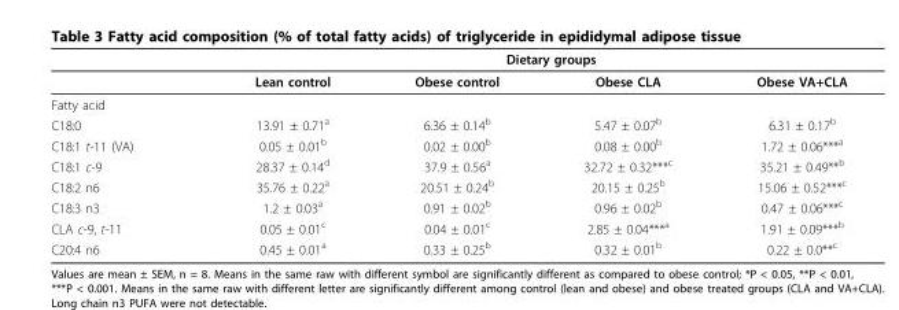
<table><thead><tr><td rowspan="2"></td><td colspan="4">Dietary groups</td></tr><tr><td>Lean control</td><td>Obese control</td><td>Obese CLA</td><td>Obese VA+CLA</td></tr></thead><tbody><tr><td colspan="5">Fatty acid</td></tr><tr><td>C18:0</td><td>13.91 ± 0.71<sup>a</sup></td><td>6.36 ± 0.14<sup>b</sup></td><td>5.47 ± 0.07<sup>b</sup></td><td>6.31 ± 0.17<sup>b</sup></td></tr><tr><td>C18:1 t-11 (VA)</td><td>0.05 ± 0.01<sup>b</sup></td><td>0.02 ± 0.00<sup>b</sup></td><td>0.08 ± 0.00<sup>b</sup></td><td>1.72 ± 0.06***<sup>a</sup></td></tr><tr><td>C18:1 c-9</td><td>28.37 ± 0.14<sup>d</sup></td><td>37.9 ± 0.56<sup>a</sup></td><td>32.72 ± 0.32***<sup>c</sup></td><td>35.21 ± 0.49**<sup>b</sup></td></tr><tr><td>C18:2 n6</td><td>35.76 ± 0.22<sup>a</sup></td><td>20.51 ± 0.24<sup>b</sup></td><td>20.15 ± 0.25<sup>b</sup></td><td>15.06 ± 0.52***<sup>c</sup></td></tr><tr><td>C18:3 n3</td><td>1.2 ± 0.03<sup>a</sup></td><td>0.91 ± 0.02<sup>b</sup></td><td>0.96 ± 0.02<sup>b</sup></td><td>0.47 ± 0.06***<sup>c</sup></td></tr><tr><td>CLA c-9, t-11</td><td>0.05 ± 0.01<sup>c</sup></td><td>0.04 ± 0.01<sup>c</sup></td><td>2.85 ± 0.04***<sup>a</sup></td><td>1.91 ± 0.09***<sup>b</sup></td></tr><tr><td>C20:4 n6</td><td>0.45 ± 0.01<sup>a</sup></td><td>0.33 ± 0.25<sup>b</sup></td><td>0.32 ± 0.01<sup>b</sup></td><td>0.22 ± 0.0**<sup>c</sup></td></tr></tbody></table>